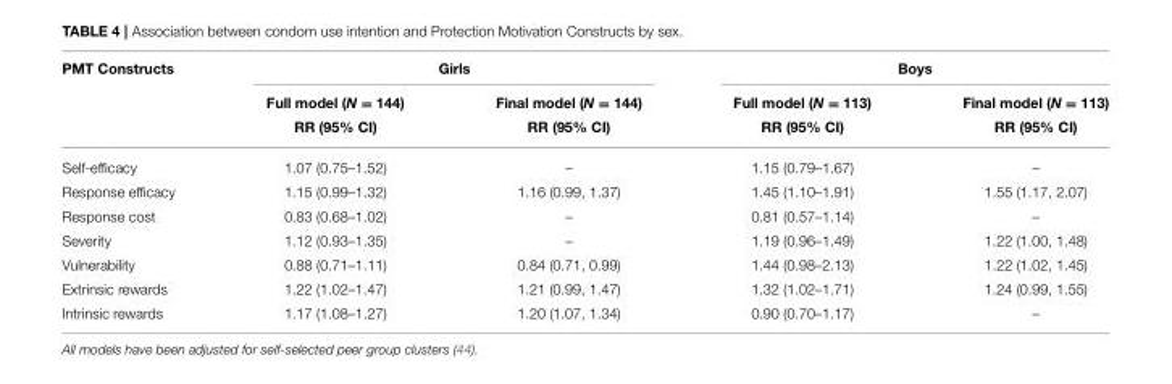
<table><thead><tr><td rowspan="3">PMT Constructs</td><td colspan="2">Girls</td><td colspan="2">Boys</td></tr><tr><td rowspan="2">Full model (N = 144) RR (95% CI)</td><td rowspan="2">Final model (N = 144) RR (95% CI)</td><td rowspan="2">Full model (N = 113) RR (95% CI)</td><td rowspan="2">Final model (N = 113) RR (95% CI)</td></tr><tr></tr></thead><tbody><tr><td>Self-efficacy</td><td>1.07 (0.75–1.52)</td><td>–</td><td>1.15 (0.79–1.67)</td><td>–</td></tr><tr><td>Response efficacy</td><td>1.15 (0.99–1.32)</td><td>1.16 (0.99, 1.37)</td><td>1.45 (1.10–1.91)</td><td>1.55 (1.17, 2.07)</td></tr><tr><td>Response cost</td><td>0.83 (0.68–1.02)</td><td>–</td><td>0.81 (0.57–1.14)</td><td>–</td></tr><tr><td>Severity</td><td>1.12 (0.93–1.35)</td><td>–</td><td>1.19 (0.96–1.49)</td><td>1.22 (1.00, 1.48)</td></tr><tr><td>Vulnerability</td><td>0.88 (0.71–1.11)</td><td>0.84 (0.71, 0.99)</td><td>1.44 (0.98–2.13)</td><td>1.22 (1.02, 1.45)</td></tr><tr><td>Extrinsic rewards</td><td>1.22 (1.02–1.47)</td><td>1.21 (0.99, 1.47)</td><td>1.32 (1.02–1.71)</td><td>1.24 (0.99, 1.55)</td></tr><tr><td>Intrinsic rewards</td><td>1.17 (1.08–1.27)</td><td>1.20 (1.07, 1.34)</td><td>0.90 (0.70–1.17)</td><td>–</td></tr></tbody></table>